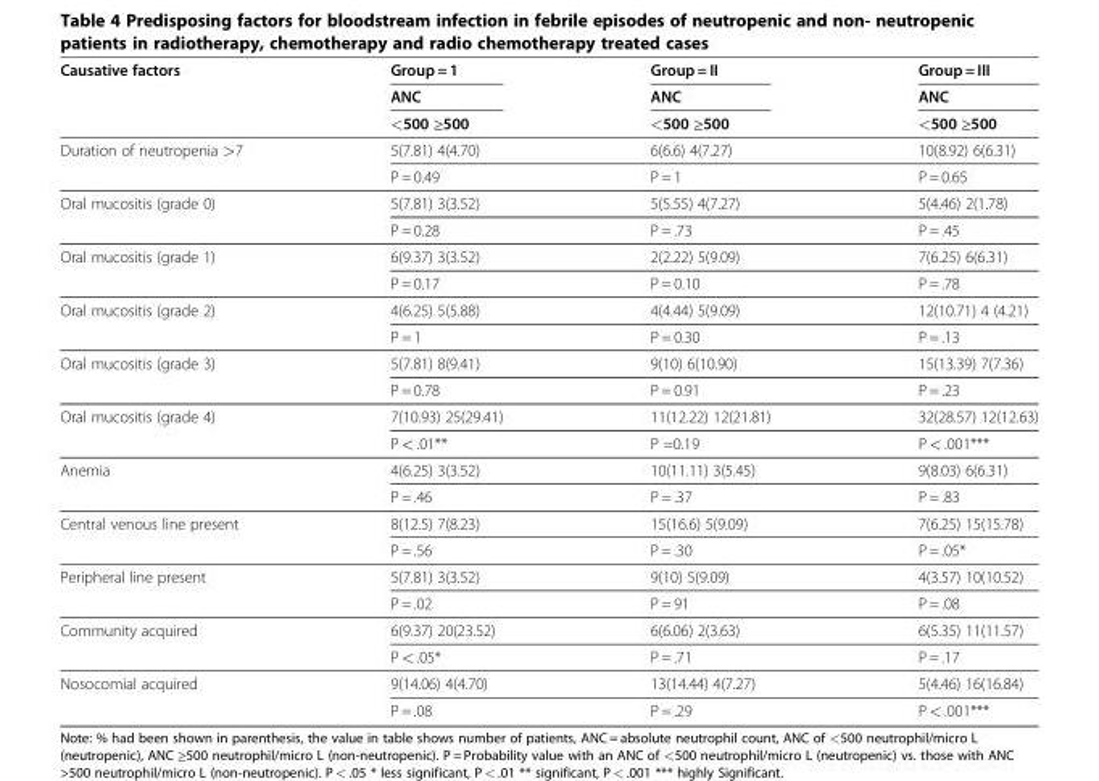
<table><thead><tr><td rowspan="3">Causative factors</td><td rowspan="3">Group = 1 ANC &lt;500 ≥500</td><td rowspan="3">Group = II ANC &lt;500 ≥500</td><td rowspan="3">Group = III ANC &lt;500 ≥500</td></tr><tr></tr><tr></tr></thead><tbody><tr><td rowspan="2">Duration of neutropenia &gt;7</td><td>5(7.81) 4(4.70)</td><td>6(6.6) 4(7.27)</td><td>10(8.92) 6(6.31)</td></tr><tr><td>P = 0.49</td><td>P = 1</td><td>P = 0.65</td></tr><tr><td rowspan="2">Oral mucositis (grade 0)</td><td>5(7.81) 3(3.52)</td><td>5(5.55) 4(7.27)</td><td>5(4.46) 2(1.78)</td></tr><tr><td>P = 0.28</td><td>P = .73</td><td>P = .45</td></tr><tr><td rowspan="2">Oral mucositis (grade 1)</td><td>6(9.37) 3(3.52)</td><td>2(2.22) 5(9.09)</td><td>7(6.25) 6(6.31)</td></tr><tr><td>P = 0.17</td><td>P = 0.10</td><td>P = .78</td></tr><tr><td rowspan="2">Oral mucositis (grade 2)</td><td>4(6.25) 5(5.88)</td><td>4(4.44) 5(9.09)</td><td>12(10.71) 4 (4.21)</td></tr><tr><td>P = 1</td><td>P = 0.30</td><td>P = .13</td></tr><tr><td rowspan="2">Oral mucositis (grade 3)</td><td>5(7.81) 8(9.41)</td><td>9(10) 6(10.90)</td><td>15(13.39) 7(7.36)</td></tr><tr><td>P = 0.78</td><td>P = 0.91</td><td>P = .23</td></tr><tr><td rowspan="2">Oral mucositis (grade 4)</td><td>7(10.93) 25(29.41)</td><td>11(12.22) 12(21.81)</td><td>32(28.57) 12(12.63)</td></tr><tr><td>P &lt; .01**</td><td>P =0.19</td><td>P &lt; .001***</td></tr><tr><td rowspan="2">Anemia</td><td>4(6.25) 3(3.52)</td><td>10(11.11) 3(5.45)</td><td>9(8.03) 6(6.31)</td></tr><tr><td>P = .46</td><td>P = .37</td><td>P = .83</td></tr><tr><td rowspan="2">Central venous line present</td><td>8(12.5) 7(8.23)</td><td>15(16.6) 5(9.09)</td><td>7(6.25) 15(15.78)</td></tr><tr><td>P = .56</td><td>P = .30</td><td>P = .05*</td></tr><tr><td rowspan="2">Peripheral line present</td><td>5(7.81) 3(3.52)</td><td>9(10) 5(9.09)</td><td>4(3.57) 10(10.52)</td></tr><tr><td>P = .02</td><td>P = 91</td><td>P = .08</td></tr><tr><td rowspan="2">Community acquired</td><td>6(9.37) 20(23.52)</td><td>6(6.06) 2(3.63)</td><td>6(5.35) 11(11.57)</td></tr><tr><td>P &lt; .05*</td><td>P = .71</td><td>P = .17</td></tr><tr><td rowspan="2">Nosocomial acquired</td><td>9(14.06) 4(4.70)</td><td>13(14.44) 4(7.27)</td><td>5(4.46) 16(16.84)</td></tr><tr><td>P = .08</td><td>P = .29</td><td>P &lt; .001***</td></tr></tbody></table>